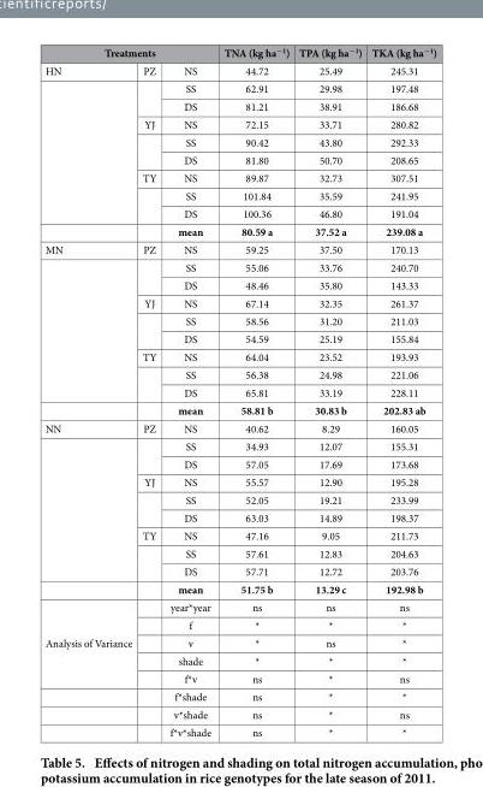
<table><thead><tr><td colspan="3">Treatments</td><td rowspan="2">TNA (kg ha<sup>−1</sup>) 44.72</td><td rowspan="2">TPA (kg ha<sup>−1</sup>) 25.49</td><td rowspan="2">TKA (kg ha<sup>−1</sup>) 245.31</td></tr><tr><td>HN</td><td>PZ</td><td>NS</td></tr></thead><tbody><tr><td rowspan="8"></td><td rowspan="2"></td><td>SS</td><td>62.91</td><td>29.98</td><td>197.48</td></tr><tr><td>DS</td><td>81.21</td><td>38.91</td><td>186.68</td></tr><tr><td>YJ</td><td>NS</td><td>72.15</td><td>33.71</td><td>280.82</td></tr><tr><td rowspan="2"></td><td>SS</td><td>90.42</td><td>43.80</td><td>292.33</td></tr><tr><td>DS</td><td>81.80</td><td>50.70</td><td>208.65</td></tr><tr><td>TY</td><td>NS</td><td>89.87</td><td>32.73</td><td>307.51</td></tr><tr><td rowspan="2"></td><td>SS</td><td>101.84</td><td>35.59</td><td>241.95</td></tr><tr><td>DS</td><td>100.36</td><td>46.80</td><td>191.04</td></tr><tr><td></td><td></td><td>mean</td><td>80.59 a</td><td>37.52 a</td><td>239.08 a</td></tr><tr><td rowspan="10">MN</td><td>PZ</td><td>NS</td><td>59.25</td><td>37.50</td><td>170.13</td></tr><tr><td rowspan="2"></td><td>SS</td><td>55.06</td><td>33.76</td><td>240.70</td></tr><tr><td>DS</td><td>48.46</td><td>35.80</td><td>143.33</td></tr><tr><td>YJ</td><td>NS</td><td>67.14</td><td>32.35</td><td>261.37</td></tr><tr><td rowspan="2"></td><td>SS</td><td>58.56</td><td>31.20</td><td>211.03</td></tr><tr><td>DS</td><td>54.59</td><td>25.19</td><td>155.84</td></tr><tr><td>TY</td><td>NS</td><td>64.04</td><td>23.52</td><td>193.93</td></tr><tr><td rowspan="2"></td><td>SS</td><td>56.38</td><td>24.98</td><td>221.06</td></tr><tr><td>DS</td><td>65.81</td><td>33.19</td><td>228.11</td></tr><tr><td></td><td>mean</td><td>58.81 b</td><td>30.83 b</td><td>202.83 ab</td></tr><tr><td rowspan="10">NN</td><td>PZ</td><td>NS</td><td>40.62</td><td>8.29</td><td>160.05</td></tr><tr><td rowspan="2"></td><td>SS</td><td>34.93</td><td>12.07</td><td>155.31</td></tr><tr><td>DS</td><td>57.05</td><td>17.69</td><td>173.68</td></tr><tr><td>YJ</td><td>NS</td><td>55.57</td><td>12.90</td><td>195.28</td></tr><tr><td rowspan="2"></td><td>SS</td><td>52.05</td><td>19.21</td><td>233.99</td></tr><tr><td>DS</td><td>63.03</td><td>14.89</td><td>198.37</td></tr><tr><td>TY</td><td>NS</td><td>47.16</td><td>9.05</td><td>211.73</td></tr><tr><td rowspan="2"></td><td>SS</td><td>57.61</td><td>12.83</td><td>204.63</td></tr><tr><td>DS</td><td>57.71</td><td>12.72</td><td>203.76</td></tr><tr><td></td><td>mean</td><td>51.75 b</td><td>13.29 c</td><td>192.98 b</td></tr><tr><td rowspan="8">Analysis of Variance</td><td></td><td>year*year</td><td>ns</td><td>ns</td><td>ns</td></tr><tr><td></td><td>f</td><td>*</td><td>*</td><td>*</td></tr><tr><td></td><td>v</td><td>*</td><td>ns</td><td>*</td></tr><tr><td></td><td>shade</td><td>*</td><td>*</td><td>*</td></tr><tr><td></td><td>f*v</td><td>ns</td><td>*</td><td>ns</td></tr><tr><td></td><td>f*shade</td><td>ns</td><td>*</td><td>*</td></tr><tr><td></td><td>v*shade</td><td>ns</td><td>*</td><td>ns</td></tr><tr><td></td><td>f*v*shade</td><td>ns</td><td>*</td><td>*</td></tr></tbody></table>